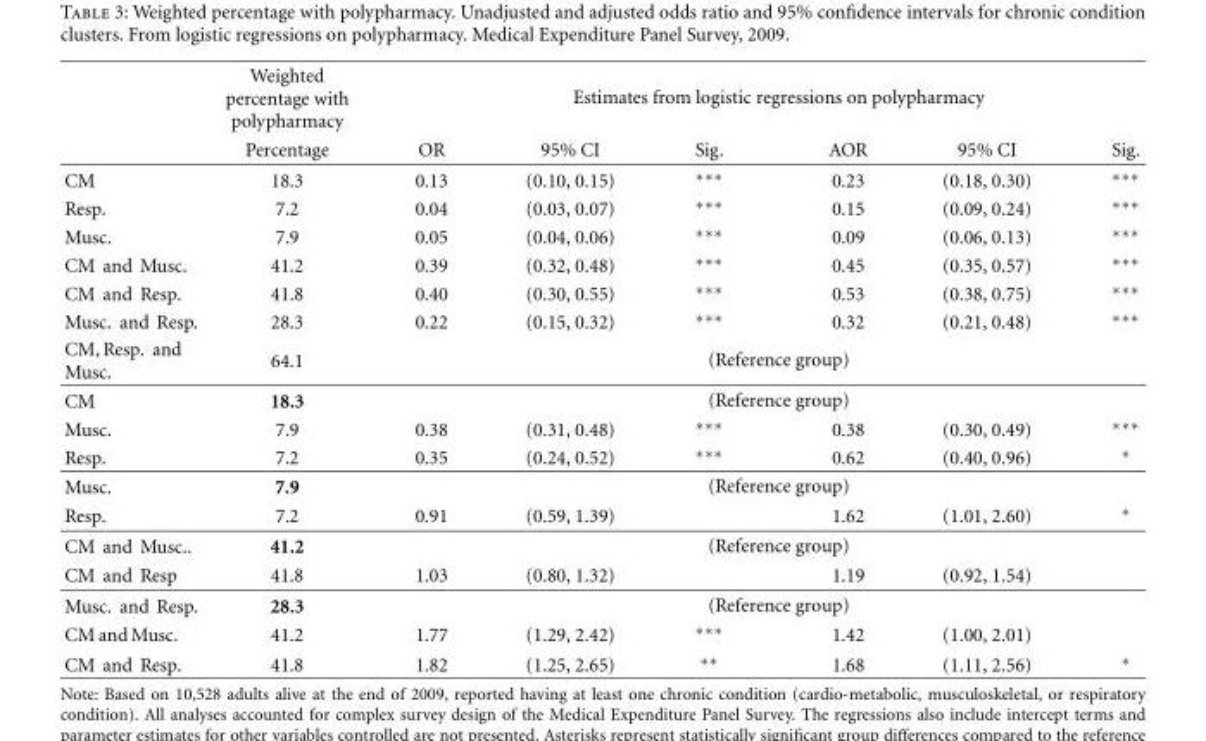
<table><thead><tr><td rowspan="2"></td><td rowspan="2">Weighted percentage with polypharmacy Percentage</td><td colspan="6">Estimates from logistic regressions on polypharmacy</td></tr><tr><td>OR</td><td>95% CI</td><td>Sig.</td><td>AOR</td><td>95% CI</td><td>Sig.</td></tr></thead><tbody><tr><td>CM</td><td>18.3</td><td>0.13</td><td>(0.10, 0.15)</td><td>∗∗∗</td><td>0.23</td><td>(0.18, 0.30)</td><td>∗∗∗</td></tr><tr><td>Resp.</td><td>7.2</td><td>0.04</td><td>(0.03, 0.07)</td><td>∗∗∗</td><td>0.15</td><td>(0.09, 0.24)</td><td>∗∗∗</td></tr><tr><td>Musc.</td><td>7.9</td><td>0.05</td><td>(0.04, 0.06)</td><td>∗∗∗</td><td>0.09</td><td>(0.06, 0.13)</td><td>∗∗∗</td></tr><tr><td>CM and Musc.</td><td>41.2</td><td>0.39</td><td>(0.32, 0.48)</td><td>∗∗∗</td><td>0.45</td><td>(0.35, 0.57)</td><td>∗∗∗</td></tr><tr><td>CM and Resp.</td><td>41.8</td><td>0.40</td><td>(0.30, 0.55)</td><td>∗∗∗</td><td>0.53</td><td>(0.38, 0.75)</td><td>∗∗∗</td></tr><tr><td>Musc. and Resp.</td><td>28.3</td><td>0.22</td><td>(0.15, 0.32)</td><td>∗∗∗</td><td>0.32</td><td>(0.21, 0.48)</td><td>∗∗∗</td></tr><tr><td>CM, Resp. and Musc.</td><td>64.1</td><td colspan="6">(Reference group)</td></tr><tr><td>CM</td><td>18.3</td><td colspan="6">(Reference group)</td></tr><tr><td>Musc.</td><td>7.9</td><td>0.38</td><td>(0.31, 0.48)</td><td>∗∗∗</td><td>0.38</td><td>(0.30, 0.49)</td><td>∗∗∗</td></tr><tr><td>Resp.</td><td>7.2</td><td>0.35</td><td>(0.24, 0.52)</td><td>∗∗∗</td><td>0.62</td><td>(0.40, 0.96)</td><td>∗</td></tr><tr><td>Musc.</td><td>7.9</td><td colspan="6">(Reference group)</td></tr><tr><td>Resp.</td><td>7.2</td><td>0.91</td><td>(0.59, 1.39)</td><td></td><td>1.62</td><td>(1.01, 2.60)</td><td>∗</td></tr><tr><td>CM and Musc..</td><td>41.2</td><td colspan="6">(Reference group)</td></tr><tr><td>CM and Resp</td><td>41.8</td><td>1.03</td><td>(0.80, 1.32)</td><td></td><td>1.19</td><td>(0.92, 1.54)</td><td></td></tr><tr><td>Musc. and Resp.</td><td>28.3</td><td colspan="6">(Reference group)</td></tr><tr><td>CM and Musc.</td><td>41.2</td><td>1.77</td><td>(1.29, 2.42)</td><td>∗∗∗</td><td>1.42</td><td>(1.00, 2.01)</td><td></td></tr><tr><td>CM and Resp.</td><td>41.8</td><td>1.82</td><td>(1.25, 2.65)</td><td>∗∗</td><td>1.68</td><td>(1.11, 2.56)</td><td>∗</td></tr></tbody></table>